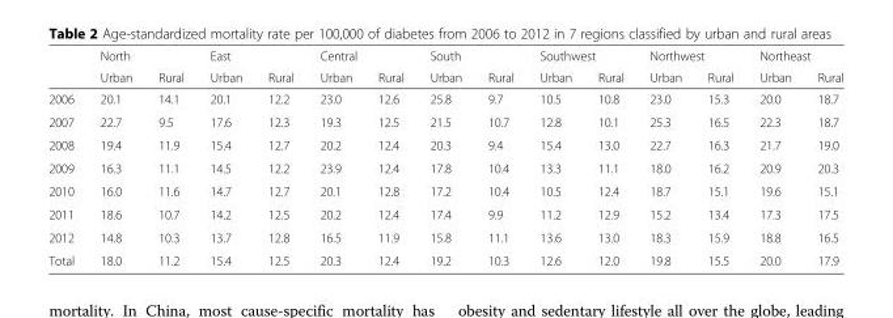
<table><thead><tr><td rowspan="2"></td><td colspan="2">North</td><td colspan="2">East</td><td colspan="2">Central</td><td colspan="2">South</td><td colspan="2">Southwest</td><td colspan="2">Northwest</td><td colspan="2">Northeast</td></tr><tr><td>Urban</td><td>Rural</td><td>Urban</td><td>Rural</td><td>Urban</td><td>Rural</td><td>Urban</td><td>Rural</td><td>Urban</td><td>Rural</td><td>Urban</td><td>Rural</td><td>Urban</td><td>Rural</td></tr></thead><tbody><tr><td>2006</td><td>20.1</td><td>14.1</td><td>20.1</td><td>12.2</td><td>23.0</td><td>12.6</td><td>25.8</td><td>9.7</td><td>10.5</td><td>10.8</td><td>23.0</td><td>15.3</td><td>20.0</td><td>18.7</td></tr><tr><td>2007</td><td>22.7</td><td>9.5</td><td>17.6</td><td>12.3</td><td>19.3</td><td>12.5</td><td>21.5</td><td>10.7</td><td>12.8</td><td>10.1</td><td>25.3</td><td>16.5</td><td>22.3</td><td>18.7</td></tr><tr><td>2008</td><td>19.4</td><td>11.9</td><td>15.4</td><td>12.7</td><td>20.2</td><td>12.4</td><td>20.3</td><td>9.4</td><td>15.4</td><td>13.0</td><td>22.7</td><td>16.3</td><td>21.7</td><td>19.0</td></tr><tr><td>2009</td><td>16.3</td><td>11.1</td><td>14.5</td><td>12.2</td><td>23.9</td><td>12.4</td><td>17.8</td><td>10.4</td><td>13.3</td><td>11.1</td><td>18.0</td><td>16.2</td><td>20.9</td><td>20.3</td></tr><tr><td>2010</td><td>16.0</td><td>11.6</td><td>14.7</td><td>12.7</td><td>20.1</td><td>12.8</td><td>17.2</td><td>10.4</td><td>10.5</td><td>12.4</td><td>18.7</td><td>15.1</td><td>19.6</td><td>15.1</td></tr><tr><td>2011</td><td>18.6</td><td>10.7</td><td>14.2</td><td>12.5</td><td>20.2</td><td>12.4</td><td>17.4</td><td>9.9</td><td>11.2</td><td>12.9</td><td>15.2</td><td>13.4</td><td>17.3</td><td>17.5</td></tr><tr><td>2012</td><td>14.8</td><td>10.3</td><td>13.7</td><td>12.8</td><td>16.5</td><td>11.9</td><td>15.8</td><td>11.1</td><td>13.6</td><td>13.0</td><td>18.3</td><td>15.9</td><td>18.8</td><td>16.5</td></tr><tr><td>Total</td><td>18.0</td><td>11.2</td><td>15.4</td><td>12.5</td><td>20.3</td><td>12.4</td><td>19.2</td><td>10.3</td><td>12.6</td><td>12.0</td><td>19.8</td><td>15.5</td><td>20.0</td><td>17.9</td></tr></tbody></table>